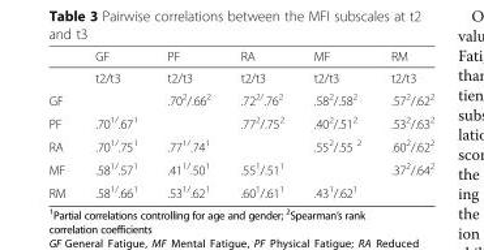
<table><thead><tr><td></td><td>GF</td><td>PF</td><td>RA</td><td>MF</td><td>RM</td></tr></thead><tbody><tr><td></td><td>t2/t3</td><td>t2/t3</td><td>t2/t3</td><td>t2/t3</td><td>t2/t3</td></tr><tr><td>GF</td><td></td><td>.70<sup>2</sup>/.66<sup>2</sup></td><td>.72<sup>2/</sup>.76<sup>2</sup></td><td>.58<sup>2</sup>/.58<sup>2</sup></td><td>.57<sup>2</sup>/.62<sup>2</sup></td></tr><tr><td>PF</td><td>.70<sup>1/</sup>.67<sup>1</sup></td><td></td><td>.77<sup>2</sup>/.75<sup>2</sup></td><td>.40<sup>2</sup>/.51<sup>2</sup></td><td>.53<sup>2</sup>/.63<sup>2</sup></td></tr><tr><td>RA</td><td>.70<sup>1/</sup>.75<sup>1</sup></td><td>.77<sup>1/</sup>.74<sup>1</sup></td><td></td><td>.55<sup>2</sup>/.55 <sup>2</sup></td><td>.60<sup>2</sup>/.62<sup>2</sup></td></tr><tr><td>MF</td><td>.58<sup>1/</sup>.57<sup>1</sup></td><td>.41<sup>1/</sup>.50<sup>1</sup></td><td>.55<sup>1</sup>/.51<sup>1</sup></td><td></td><td>.37<sup>2</sup>/.64<sup>2</sup></td></tr><tr><td>RM</td><td>.58<sup>1/</sup>.66<sup>1</sup></td><td>.53<sup>1/</sup>.62<sup>1</sup></td><td>.60<sup>1</sup>/.61<sup>1</sup></td><td>.43<sup>1</sup>/.62<sup>1</sup></td><td></td></tr></tbody></table>